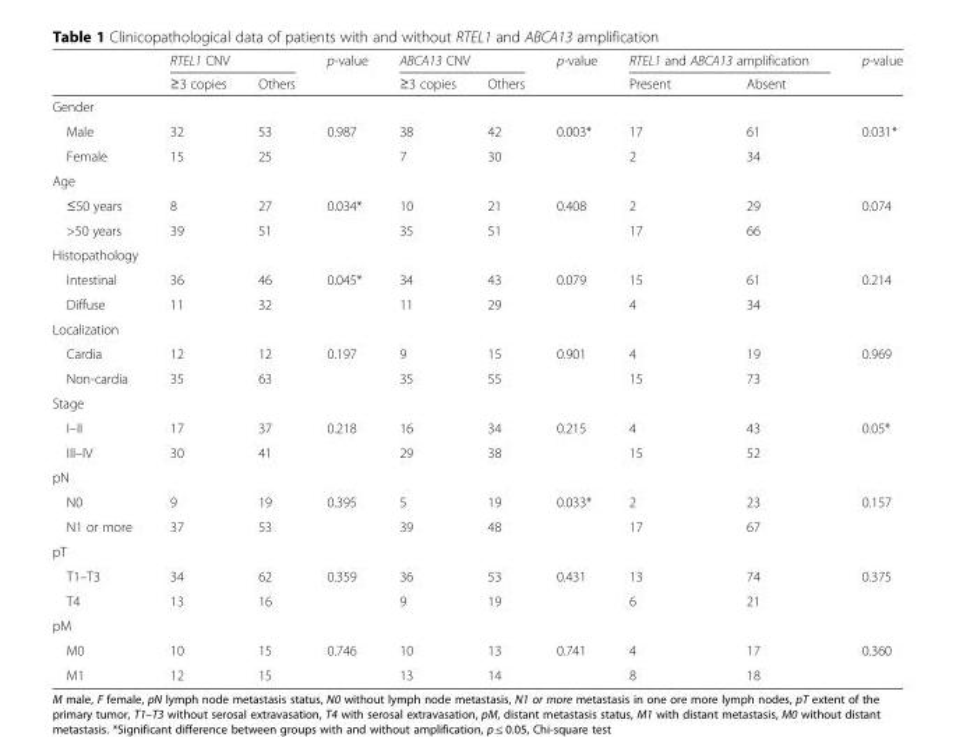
<table><thead><tr><td rowspan="2"></td><td colspan="2">RTEL1 CNV</td><td rowspan="2">p-value</td><td colspan="2">ABCA13 CNV</td><td rowspan="2">p-value</td><td colspan="2">RTEL1 and ABCA13 amplification</td><td rowspan="2">p-value</td></tr><tr><td>≥3 copies</td><td>Others</td><td>≥3 copies</td><td>Others</td><td>Present</td><td>Absent</td></tr></thead><tbody><tr><td colspan="10">Gender</td></tr><tr><td>Male</td><td>32</td><td>53</td><td>0.987</td><td>38</td><td>42</td><td>0.003*</td><td>17</td><td>61</td><td>0.031*</td></tr><tr><td>Female</td><td>15</td><td>25</td><td></td><td>7</td><td>30</td><td></td><td>2</td><td>34</td><td></td></tr><tr><td colspan="10">Age</td></tr><tr><td>≤50 years</td><td>8</td><td>27</td><td>0.034*</td><td>10</td><td>21</td><td>0.408</td><td>2</td><td>29</td><td>0.074</td></tr><tr><td>&gt;50 years</td><td>39</td><td>51</td><td></td><td>35</td><td>51</td><td></td><td>17</td><td>66</td><td></td></tr><tr><td colspan="10">Histopathology</td></tr><tr><td>Intestinal</td><td>36</td><td>46</td><td>0.045*</td><td>34</td><td>43</td><td>0.079</td><td>15</td><td>61</td><td>0.214</td></tr><tr><td>Diffuse</td><td>11</td><td>32</td><td></td><td>11</td><td>29</td><td></td><td>4</td><td>34</td><td></td></tr><tr><td colspan="10">Localization</td></tr><tr><td>Cardia</td><td>12</td><td>12</td><td>0.197</td><td>9</td><td>15</td><td>0.901</td><td>4</td><td>19</td><td>0.969</td></tr><tr><td>Non-cardia</td><td>35</td><td>63</td><td></td><td>35</td><td>55</td><td></td><td>15</td><td>73</td><td></td></tr><tr><td colspan="10">Stage</td></tr><tr><td>I–II</td><td>17</td><td>37</td><td>0.218</td><td>16</td><td>34</td><td>0.215</td><td>4</td><td>43</td><td>0.05*</td></tr><tr><td>III–IV</td><td>30</td><td>41</td><td></td><td>29</td><td>38</td><td></td><td>15</td><td>52</td><td></td></tr><tr><td colspan="10">pN</td></tr><tr><td>N0</td><td>9</td><td>19</td><td>0.395</td><td>5</td><td>19</td><td>0.033*</td><td>2</td><td>23</td><td>0.157</td></tr><tr><td>N1 or more</td><td>37</td><td>53</td><td></td><td>39</td><td>48</td><td></td><td>17</td><td>67</td><td></td></tr><tr><td colspan="10">pT</td></tr><tr><td>T1–T3</td><td>34</td><td>62</td><td>0.359</td><td>36</td><td>53</td><td>0.431</td><td>13</td><td>74</td><td>0.375</td></tr><tr><td>T4</td><td>13</td><td>16</td><td></td><td>9</td><td>19</td><td></td><td>6</td><td>21</td><td></td></tr><tr><td colspan="10">pM</td></tr><tr><td>M0</td><td>10</td><td>15</td><td>0.746</td><td>10</td><td>13</td><td>0.741</td><td>4</td><td>17</td><td>0.360</td></tr><tr><td>M1</td><td>12</td><td>15</td><td></td><td>13</td><td>14</td><td></td><td>8</td><td>18</td><td></td></tr></tbody></table>